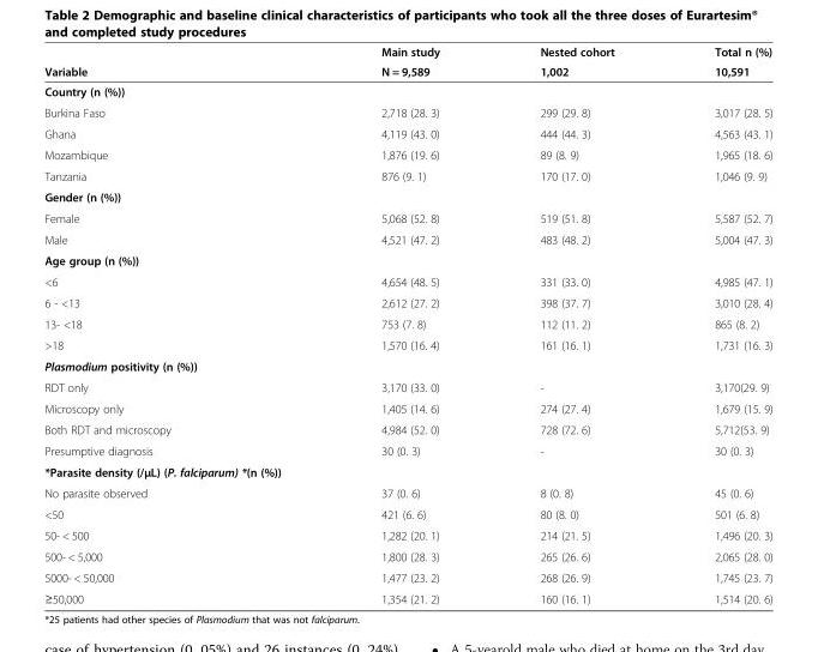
<table><thead><tr><td rowspan="2">Variable</td><td rowspan="2">Main study N = 9,589</td><td rowspan="2">Nested cohort 1,002</td><td rowspan="2">Total n (%) 10,591</td></tr><tr></tr></thead><tbody><tr><td colspan="4">Country (n (%))</td></tr><tr><td>Burkina Faso</td><td>2,718 (28. 3)</td><td>299 (29. 8)</td><td>3,017 (28. 5)</td></tr><tr><td>Ghana</td><td>4,119 (43. 0)</td><td>444 (44. 3)</td><td>4,563 (43. 1)</td></tr><tr><td>Mozambique</td><td>1,876 (19. 6)</td><td>89 (8. 9)</td><td>1,965 (18. 6)</td></tr><tr><td>Tanzania</td><td>876 (9. 1)</td><td>170 (17. 0)</td><td>1,046 (9. 9)</td></tr><tr><td colspan="4">Gender (n (%))</td></tr><tr><td>Female</td><td>5,068 (52. 8)</td><td>519 (51. 8)</td><td>5,587 (52. 7)</td></tr><tr><td>Male</td><td>4,521 (47. 2)</td><td>483 (48. 2)</td><td>5,004 (47. 3)</td></tr><tr><td colspan="4">Age group (n (%))</td></tr><tr><td>&lt;6</td><td>4,654 (48. 5)</td><td>331 (33. 0)</td><td>4,985 (47. 1)</td></tr><tr><td>6 - &lt;13</td><td>2,612 (27. 2)</td><td>398 (37. 7)</td><td>3,010 (28. 4)</td></tr><tr><td>13- &lt;18</td><td>753 (7. 8)</td><td>112 (11. 2)</td><td>865 (8. 2)</td></tr><tr><td>&gt;18</td><td>1,570 (16. 4)</td><td>161 (16. 1)</td><td>1,731 (16. 3)</td></tr><tr><td colspan="4">Plasmodium positivity (n (%))</td></tr><tr><td>RDT only</td><td>3,170 (33. 0)</td><td>-</td><td>3,170(29. 9)</td></tr><tr><td>Microscopy only</td><td>1,405 (14. 6)</td><td>274 (27. 4)</td><td>1,679 (15. 9)</td></tr><tr><td>Both RDT and microscopy</td><td>4,984 (52. 0)</td><td>728 (72. 6)</td><td>5,712(53. 9)</td></tr><tr><td>Presumptive diagnosis</td><td>30 (0. 3)</td><td>-</td><td>30 (0. 3)</td></tr><tr><td colspan="4">*Parasite density (/μL) (P. falciparum) *(n (%))</td></tr><tr><td>No parasite observed</td><td>37 (0. 6)</td><td>8 (0. 8)</td><td>45 (0. 6)</td></tr><tr><td>&lt;50</td><td>421 (6. 6)</td><td>80 (8. 0)</td><td>501 (6. 8)</td></tr><tr><td>50- &lt; 500</td><td>1,282 (20. 1)</td><td>214 (21. 5)</td><td>1,496 (20. 3)</td></tr><tr><td>500- &lt; 5,000</td><td>1,800 (28. 3)</td><td>265 (26. 6)</td><td>2,065 (28. 0)</td></tr><tr><td>5000- &lt; 50,000</td><td>1,477 (23. 2)</td><td>268 (26. 9)</td><td>1,745 (23. 7)</td></tr><tr><td>≥50,000</td><td>1,354 (21. 2)</td><td>160 (16. 1)</td><td>1,514 (20. 6)</td></tr></tbody></table>